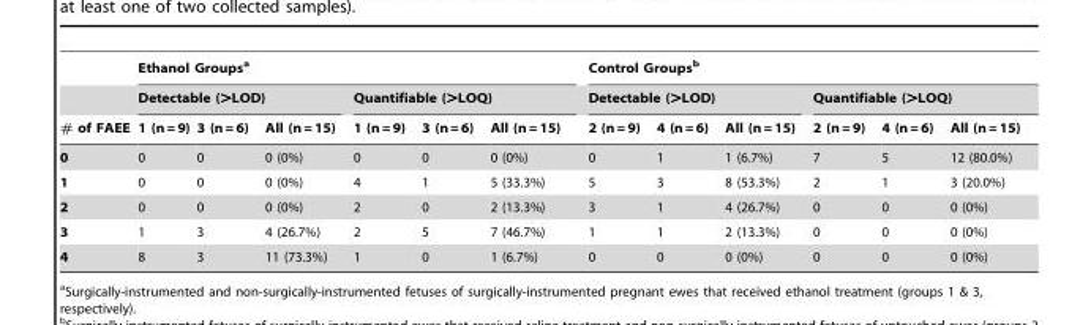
<table><thead><tr><td rowspan="3"># of FAEE</td><td colspan="6">Ethanol Groups<sup>a</sup></td><td colspan="6">Control Groups<sup>b</sup></td></tr><tr><td colspan="3">Detectable (&gt;LOD)</td><td colspan="3">Quantifiable (&gt;LOQ)</td><td colspan="3">Detectable (&gt;LOD)</td><td colspan="3">Quantifiable (&gt;LOQ)</td></tr><tr><td>1 (n = 9)</td><td>3 (n = 6)</td><td>All (n = 15)</td><td>1 (n = 9)</td><td>3 (n = 6)</td><td>All (n = 15)</td><td>2 (n = 9)</td><td>4 (n = 6)</td><td>All (n = 15)</td><td>2 (n = 9)</td><td>4 (n = 6)</td><td>All (n = 15)</td></tr></thead><tbody><tr><td>0</td><td>0</td><td>0</td><td>0 (0%)</td><td>0</td><td>0</td><td>0 (0%)</td><td>0</td><td>1</td><td>1 (6.7%)</td><td>7</td><td>5</td><td>12 (80.0%)</td></tr><tr><td>1</td><td>0</td><td>0</td><td>0 (0%)</td><td>4</td><td>1</td><td>5 (33.3%)</td><td>5</td><td>3</td><td>8 (53.3%)</td><td>2</td><td>1</td><td>3 (20.0%)</td></tr><tr><td>2</td><td>0</td><td>0</td><td>0 (0%)</td><td>2</td><td>0</td><td>2 (13.3%)</td><td>3</td><td>1</td><td>4 (26.7%)</td><td>0</td><td>0</td><td>0 (0%)</td></tr><tr><td>3</td><td>1</td><td>3</td><td>4 (26.7%)</td><td>2</td><td>5</td><td>7 (46.7%)</td><td>1</td><td>1</td><td>2 (13.3%)</td><td>0</td><td>0</td><td>0 (0%)</td></tr><tr><td>4</td><td>8</td><td>3</td><td>11 (73.3%)</td><td>1</td><td>0</td><td>1 (6.7%)</td><td>0</td><td>0</td><td>0 (0%)</td><td>0</td><td>0</td><td>0 (0%)</td></tr></tbody></table>